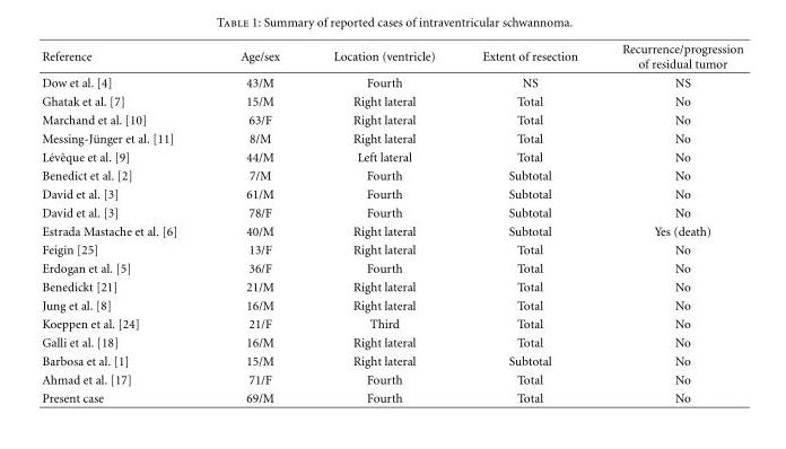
<table><thead><tr><td>Reference</td><td>Age/sex</td><td>Location (ventricle)</td><td>Extent of resection</td><td>Recurrence/progression of residual tumor</td></tr></thead><tbody><tr><td>Dow et al. [4]</td><td>43/M</td><td>Fourth</td><td>NS</td><td>NS</td></tr><tr><td>Ghatak et al. [7]</td><td>15/M</td><td>Right lateral</td><td>Total</td><td>No</td></tr><tr><td>Marchand et al. [10]</td><td>63/F</td><td>Right lateral</td><td>Total</td><td>No</td></tr><tr><td>Messing-J¨unger et al. [11]</td><td>8/M</td><td>Right lateral</td><td>Total</td><td>No</td></tr><tr><td>L´evˆeque et al. [9]</td><td>44/M</td><td>Left lateral</td><td>Total</td><td>No</td></tr><tr><td>Benedict et al. [2]</td><td>7/M</td><td>Fourth</td><td>Subtotal</td><td>No</td></tr><tr><td>David et al. [3]</td><td>61/M</td><td>Fourth</td><td>Subtotal</td><td>No</td></tr><tr><td>David et al. [3]</td><td>78/F</td><td>Fourth</td><td>Subtotal</td><td>No</td></tr><tr><td>Estrada Mastache et al. [6]</td><td>40/M</td><td>Right lateral</td><td>Subtotal</td><td>Yes (death)</td></tr><tr><td>Feigin [25]</td><td>13/F</td><td>Right lateral</td><td>Total</td><td>No</td></tr><tr><td>Erdogan et al. [5]</td><td>36/F</td><td>Fourth</td><td>Total</td><td>No</td></tr><tr><td>Benedickt [21]</td><td>21/M</td><td>Right lateral</td><td>Total</td><td>No</td></tr><tr><td>Jung et al. [8]</td><td>16/M</td><td>Right lateral</td><td>Total</td><td>No</td></tr><tr><td>Koeppen et al. [24]</td><td>21/F</td><td>Third</td><td>Total</td><td>No</td></tr><tr><td>Galli et al. [18]</td><td>16/M</td><td>Right lateral</td><td>Total</td><td>No</td></tr><tr><td>Barbosa et al. [1]</td><td>15/M</td><td>Right lateral</td><td>Subtotal</td><td>No</td></tr><tr><td>Ahmad et al. [17]</td><td>71/F</td><td>Fourth</td><td>Total</td><td>No</td></tr><tr><td>Present case</td><td>69/M</td><td>Fourth</td><td>Total</td><td>No</td></tr></tbody></table>